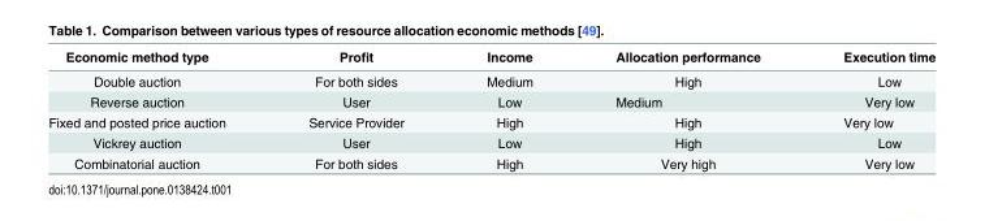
<table><thead><tr><td>Economic method type</td><td>Profit</td><td>Income</td><td>Allocation performance</td><td>Execution time</td></tr></thead><tbody><tr><td>Double auction</td><td>For both sides</td><td>Medium</td><td>High</td><td>Low</td></tr><tr><td>Reverse auction</td><td>User</td><td>Low</td><td>Medium</td><td>Very low</td></tr><tr><td>Fixed and posted price auction</td><td>Service Provider</td><td>High</td><td>High</td><td>Very low</td></tr><tr><td>Vickrey auction</td><td>User</td><td>Low</td><td>High</td><td>Low</td></tr><tr><td>Combinatorial auction</td><td>For both sides</td><td>High</td><td>Very high</td><td>Very low</td></tr></tbody></table>